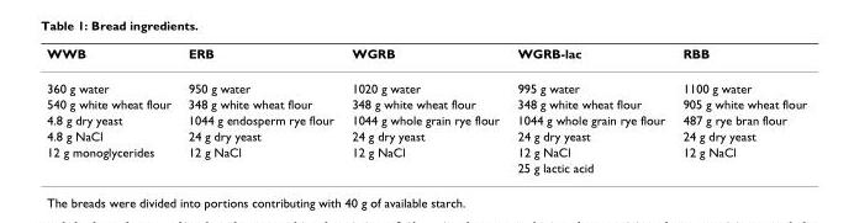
<table><thead><tr><td>WWB</td><td>ERB</td><td>WGRB</td><td>WGRB-lac</td><td>RBB</td></tr></thead><tbody><tr><td>360 g water</td><td>950 g water</td><td>1020 g water</td><td>995 g water</td><td>1100 g water</td></tr><tr><td>540 g white wheat flour</td><td>348 g white wheat flour</td><td>348 g white wheat flour</td><td>348 g white wheat flour</td><td>905 g white wheat flour</td></tr><tr><td>4.8 g dry yeast</td><td>1044 g endosperm rye flour</td><td>1044 g whole grain rye flour</td><td>1044 g whole grain rye flour</td><td>487 g rye bran flour</td></tr><tr><td>4.8 g NaCl</td><td>24 g dry yeast</td><td>24 g dry yeast</td><td>24 g dry yeast</td><td>24 g dry yeast</td></tr><tr><td rowspan="2">12 g monoglycerides</td><td>12 g NaCl</td><td>12 g NaCl</td><td>12 g NaCl</td><td>12 g NaCl</td></tr><tr><td></td><td></td><td>25 g lactic acid</td><td></td></tr></tbody></table>